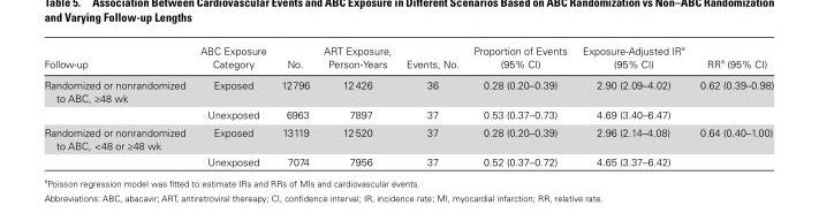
<table><thead><tr><td>Follow-up</td><td>ABC Exposure Category</td><td>No.</td><td>ART Exposure, Person-Years</td><td>Events, No.</td><td>Proportion of Events (95% CI)</td><td>Exposure-Adjusted IR<sup>a</sup> (95% CI)</td><td>RR<sup>a</sup> (95% CI)</td></tr></thead><tbody><tr><td rowspan="2">Randomized or nonrandomized to ABC, ≥48 wk</td><td>Exposed</td><td>12 796</td><td>12 426</td><td>36</td><td>0.28 (0.20–0.39)</td><td>2.90 (2.09–4.02)</td><td>0.62 (0.39–0.98)</td></tr><tr><td>Unexposed</td><td>6963</td><td>7897</td><td>37</td><td>0.53 (0.37–0.73)</td><td>4.69 (3.40–6.47)</td><td></td></tr><tr><td rowspan="2">Randomized or nonrandomized to ABC, &lt;48 or ≥48 wk</td><td>Exposed</td><td>13 119</td><td>12 520</td><td>37</td><td>0.28 (0.20–0.39)</td><td>2.96 (2.14–4.08)</td><td>0.64 (0.40–1.00)</td></tr><tr><td>Unexposed</td><td>7074</td><td>7956</td><td>37</td><td>0.52 (0.37–0.72)</td><td>4.65 (3.37–6.42)</td><td></td></tr></tbody></table>